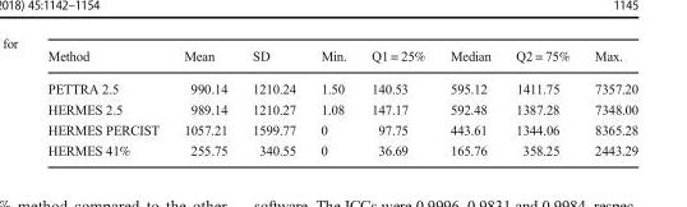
<table><thead><tr><td>Method</td><td>Mean</td><td>SD</td><td>Min.</td><td>Q1 = 25%</td><td>Median</td><td>Q2 = 75%</td><td>Max.</td></tr></thead><tbody><tr><td>PETTRA 2.5</td><td>990.14</td><td>1210.24</td><td>1.50</td><td>140.53</td><td>595.12</td><td>1411.75</td><td>7357.20</td></tr><tr><td>HERMES 2.5</td><td>989.14</td><td>1210.27</td><td>1.08</td><td>147.17</td><td>592.48</td><td>1387.28</td><td>7348.00</td></tr><tr><td>HERMES PERCIST</td><td>1057.21</td><td>1599.77</td><td>0</td><td>97.75</td><td>443.61</td><td>1344.06</td><td>8365.28</td></tr><tr><td>HERMES 41%</td><td>255.75</td><td>340.55</td><td>0</td><td>36.69</td><td>165.76</td><td>358.25</td><td>2443.29</td></tr></tbody></table>